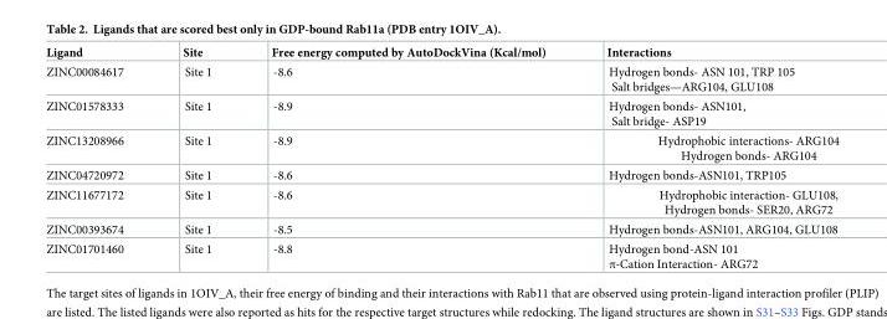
<table><thead><tr><td>Ligand</td><td>Site</td><td>Free energy computed by AutoDockVina (Kcal/mol)</td><td>Interactions</td></tr></thead><tbody><tr><td>ZINC00084617</td><td>Site 1</td><td>-8.6</td><td>Hydrogen bonds- ASN 101, TRP 105 Salt bridges—ARG104, GLU108</td></tr><tr><td>ZINC01578333</td><td>Site 1</td><td>-8.9</td><td>Hydrogen bonds- ASN101, Salt bridge- ASP19</td></tr><tr><td>ZINC13208966</td><td>Site 1</td><td>-8.9</td><td>Hydrophobic interactions- ARG104 Hydrogen bonds- ARG104</td></tr><tr><td>ZINC04720972</td><td>Site 1</td><td>-8.6</td><td>Hydrogen bonds-ASN101, TRP105</td></tr><tr><td>ZINC11677172</td><td>Site 1</td><td>-8.6</td><td>Hydrophobic interaction- GLU108, Hydrogen bonds- SER20, ARG72</td></tr><tr><td>ZINC00393674</td><td>Site 1</td><td>-8.5</td><td>Hydrogen bonds-ASN101, ARG104, GLU108</td></tr><tr><td>ZINC01701460</td><td>Site 1</td><td>-8.8</td><td>Hydrogen bond-ASN 101 π-Cation Interaction- ARG72</td></tr></tbody></table>